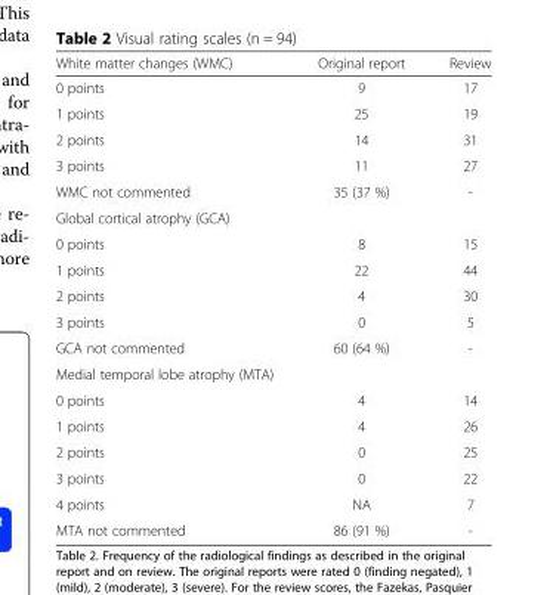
<table><thead><tr><td>White matter changes (WMC)</td><td>Original report</td><td>Review</td></tr></thead><tbody><tr><td>0 points</td><td>9</td><td>17</td></tr><tr><td>1 points</td><td>25</td><td>19</td></tr><tr><td>2 points</td><td>14</td><td>31</td></tr><tr><td>3 points</td><td>11</td><td>27</td></tr><tr><td>WMC not commented</td><td>35 (37 %)</td><td>-</td></tr><tr><td colspan="3">Global cortical atrophy (GCA)</td></tr><tr><td>0 points</td><td>8</td><td>15</td></tr><tr><td>1 points</td><td>22</td><td>44</td></tr><tr><td>2 points</td><td>4</td><td>30</td></tr><tr><td>3 points</td><td>0</td><td>5</td></tr><tr><td>GCA not commented</td><td>60 (64 %)</td><td>-</td></tr><tr><td colspan="3">Medial temporal lobe atrophy (MTA)</td></tr><tr><td>0 points</td><td>4</td><td>14</td></tr><tr><td>1 points</td><td>4</td><td>26</td></tr><tr><td>2 points</td><td>0</td><td>25</td></tr><tr><td>3 points</td><td>0</td><td>22</td></tr><tr><td>4 points</td><td>NA</td><td>7</td></tr><tr><td>MTA not commented</td><td>86 (91 %)</td><td>-</td></tr></tbody></table>